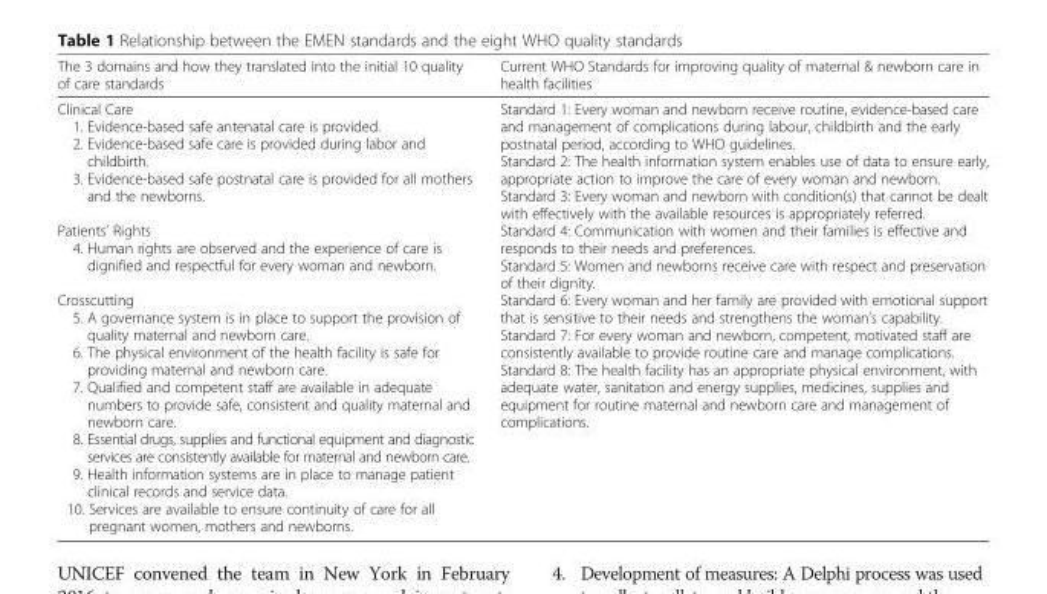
<table><thead><tr><td>The 3 domains and how they translated into the initial 10 quality of care standards</td><td>Current WHO Standards for improving quality of maternal &amp; newborn care in health facilities</td></tr></thead><tbody><tr><td>Clinical Care 1. Evidence-based safe antenatal care is provided. 2. Evidence-based safe care is provided during labor and childbirth. 3. Evidence-based safe postnatal care is provided for all mothers and the newborns. Patients’ Rights 4. Human rights are observed and the experience of care is dignified and respectful for every woman and newborn. Crosscutting 5. A governance system is in place to support the provision of quality maternal and newborn care. 6. The physical environment of the health facility is safe for providing maternal and newborn care. 7. Qualified and competent staff are available in adequate numbers to provide safe, consistent and quality maternal and newborn care. 8. Essential drugs, supplies and functional equipment and diagnostic services are consistently available for maternal and newborn care. 9. Health information systems are in place to manage patient clinical records and service data. 10. Services are available to ensure continuity of care for all pregnant women, mothers and newborns.</td><td>Standard 1: Every woman and newborn receive routine, evidence-based care and management of complications during labour, childbirth and the early postnatal period, according to WHO guidelines. Standard 2: The health information system enables use of data to ensure early, appropriate action to improve the care of every woman and newborn. Standard 3: Every woman and newborn with condition(s) that cannot be dealt with effectively with the available resources is appropriately referred. Standard 4: Communication with women and their families is effective and responds to their needs and preferences. Standard 5: Women and newborns receive care with respect and preservation of their dignity. Standard 6: Every woman and her family are provided with emotional support that is sensitive to their needs and strengthens the woman’s capability. Standard 7: For every woman and newborn, competent, motivated staff are consistently available to provide routine care and manage complications. Standard 8: The health facility has an appropriate physical environment, with adequate water, sanitation and energy supplies, medicines, supplies and equipment for routine maternal and newborn care and management of complications.</td></tr></tbody></table>